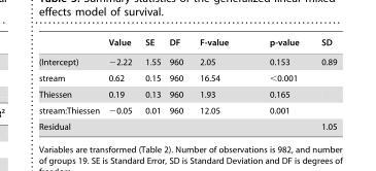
<table><thead><tr><td></td><td>Value</td><td>SE</td><td>DF</td><td>F-value</td><td>p-value</td><td>SD</td></tr></thead><tbody><tr><td>(Intercept)</td><td>−2.22</td><td>1.55</td><td>960</td><td>2.05</td><td>0.153</td><td>0.89</td></tr><tr><td>stream</td><td>0.62</td><td>0.15</td><td>960</td><td>16.54</td><td>&lt;0.001</td><td></td></tr><tr><td>Thiessen</td><td>0.19</td><td>0.13</td><td>960</td><td>1.93</td><td>0.165</td><td></td></tr><tr><td>stream:Thiessen</td><td>−0.05</td><td>0.01</td><td>960</td><td>12.05</td><td>0.001</td><td></td></tr><tr><td>Residual</td><td></td><td></td><td></td><td></td><td></td><td>1.05</td></tr></tbody></table>